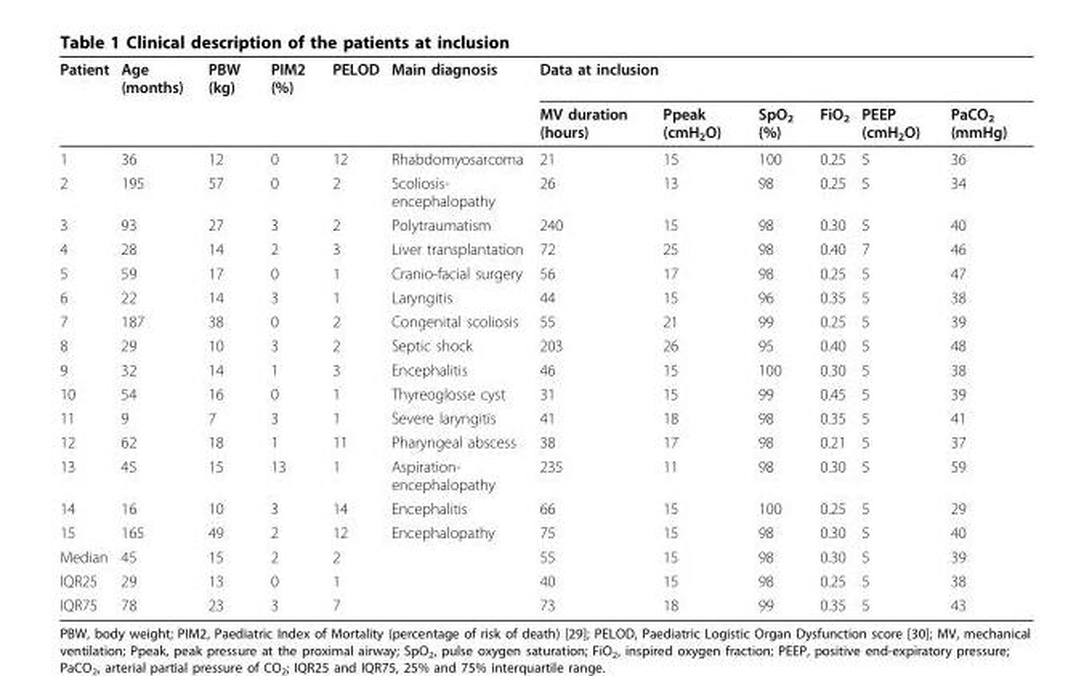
<table><thead><tr><td rowspan="2">Patient</td><td rowspan="2">Age (months)</td><td rowspan="2">PBW (kg)</td><td rowspan="2">PIM2 (%)</td><td rowspan="2">PELOD</td><td rowspan="2">Main diagnosis</td><td colspan="6">Data at inclusion</td></tr><tr><td>MV duration (hours)</td><td>Ppeak (cmH<sub>2</sub>O)</td><td>SpO<sub>2</sub> (%)</td><td>FiO<sub>2</sub></td><td>PEEP (cmH<sub>2</sub>O)</td><td>PaCO<sub>2</sub> (mmHg)</td></tr></thead><tbody><tr><td>1</td><td>36</td><td>12</td><td>0</td><td>12</td><td>Rhabdomyosarcoma</td><td>21</td><td>15</td><td>100</td><td>0.25</td><td>5</td><td>36</td></tr><tr><td>2</td><td>195</td><td>57</td><td>0</td><td>2</td><td>Scoliosis- encephalopathy</td><td>26</td><td>13</td><td>98</td><td>0.25</td><td>5</td><td>34</td></tr><tr><td>3</td><td>93</td><td>27</td><td>3</td><td>2</td><td>Polytraumatism</td><td>240</td><td>15</td><td>98</td><td>0.30</td><td>5</td><td>40</td></tr><tr><td>4</td><td>28</td><td>14</td><td>2</td><td>3</td><td>Liver transplantation</td><td>72</td><td>25</td><td>98</td><td>0.40</td><td>7</td><td>46</td></tr><tr><td>5</td><td>59</td><td>17</td><td>0</td><td>1</td><td>Cranio-facial surgery</td><td>56</td><td>17</td><td>98</td><td>0.25</td><td>5</td><td>47</td></tr><tr><td>6</td><td>22</td><td>14</td><td>3</td><td>1</td><td>Laryngitis</td><td>44</td><td>15</td><td>96</td><td>0.35</td><td>5</td><td>38</td></tr><tr><td>7</td><td>187</td><td>38</td><td>0</td><td>2</td><td>Congenital scoliosis</td><td>55</td><td>21</td><td>99</td><td>0.25</td><td>5</td><td>39</td></tr><tr><td>8</td><td>29</td><td>10</td><td>3</td><td>2</td><td>Septic shock</td><td>203</td><td>26</td><td>95</td><td>0.40</td><td>5</td><td>48</td></tr><tr><td>9</td><td>32</td><td>14</td><td>1</td><td>3</td><td>Encephalitis</td><td>46</td><td>15</td><td>100</td><td>0.30</td><td>5</td><td>38</td></tr><tr><td>10</td><td>54</td><td>16</td><td>0</td><td>1</td><td>Thyreoglosse cyst</td><td>31</td><td>15</td><td>99</td><td>0.45</td><td>5</td><td>39</td></tr><tr><td>11</td><td>9</td><td>7</td><td>3</td><td>1</td><td>Severe laryngitis</td><td>41</td><td>18</td><td>98</td><td>0.35</td><td>5</td><td>41</td></tr><tr><td>12</td><td>62</td><td>18</td><td>1</td><td>11</td><td>Pharyngeal abscess</td><td>38</td><td>17</td><td>98</td><td>0.21</td><td>5</td><td>37</td></tr><tr><td>13</td><td>45</td><td>15</td><td>13</td><td>1</td><td>Aspiration- encephalopathy</td><td>235</td><td>11</td><td>98</td><td>0.30</td><td>5</td><td>59</td></tr><tr><td>14</td><td>16</td><td>10</td><td>3</td><td>14</td><td>Encephalitis</td><td>66</td><td>15</td><td>100</td><td>0.25</td><td>5</td><td>29</td></tr><tr><td>15</td><td>165</td><td>49</td><td>2</td><td>12</td><td>Encephalopathy</td><td>75</td><td>15</td><td>98</td><td>0.30</td><td>5</td><td>40</td></tr><tr><td>Median</td><td>45</td><td>15</td><td>2</td><td>2</td><td></td><td>55</td><td>15</td><td>98</td><td>0.30</td><td>5</td><td>39</td></tr><tr><td>IQR25</td><td>29</td><td>13</td><td>0</td><td>1</td><td></td><td>40</td><td>15</td><td>98</td><td>0.25</td><td>5</td><td>38</td></tr><tr><td>IQR75</td><td>78</td><td>23</td><td>3</td><td>7</td><td></td><td>73</td><td>18</td><td>99</td><td>0.35</td><td>5</td><td>43</td></tr></tbody></table>